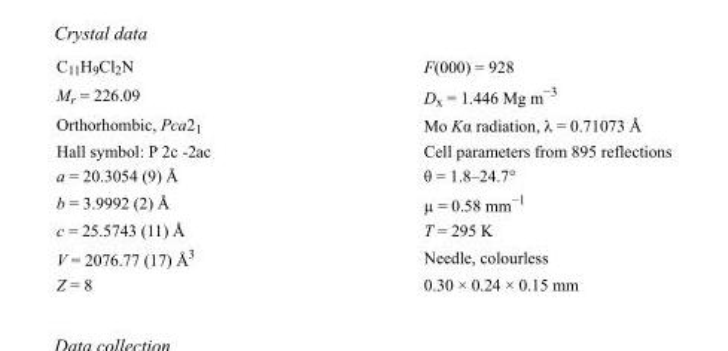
<table><tbody><tr><td>C<sub>11</sub>H<sub>9</sub>Cl<sub>2</sub>N</td><td>F(000) = 928</td></tr><tr><td>M<sub>r</sub> = 226.09</td><td>D<sub>x</sub> = 1.446 Mg m<sup>−3</sup></td></tr><tr><td>Orthorhombic, Pca2<sub>1</sub></td><td>Mo Kα radiation, λ = 0.71073 Å</td></tr><tr><td>Hall symbol: P 2c -2ac</td><td>Cell parameters from 895 reflections</td></tr><tr><td>a = 20.3054 (9) Å</td><td>θ = 1.8–24.7°</td></tr><tr><td>b = 3.9992 (2) Å</td><td>µ = 0.58 mm<sup>−1</sup></td></tr><tr><td>c = 25.5743 (11) Å</td><td>T = 295 K</td></tr><tr><td>V = 2076.77 (17) Å<sup>3</sup></td><td>Needle, colourless</td></tr><tr><td>Z = 8</td><td>0.30 × 0.24 × 0.15 mm</td></tr></tbody></table>